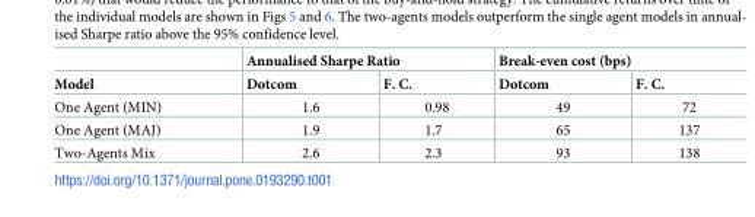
<table><thead><tr><td rowspan="2">Model</td><td colspan="2">Annualised Sharpe Ratio</td><td colspan="2">Break-even cost (bps)</td></tr><tr><td>Dotcom</td><td>F. C.</td><td>Dotcom</td><td>F. C.</td></tr></thead><tbody><tr><td>One Agent (MIN)</td><td>1.6</td><td>0.98</td><td>49</td><td>72</td></tr><tr><td>One Agent (MAJ)</td><td>1.9</td><td>1.7</td><td>65</td><td>137</td></tr><tr><td>Two-Agents Mix</td><td>2.6</td><td>2.3</td><td>93</td><td>138</td></tr></tbody></table>